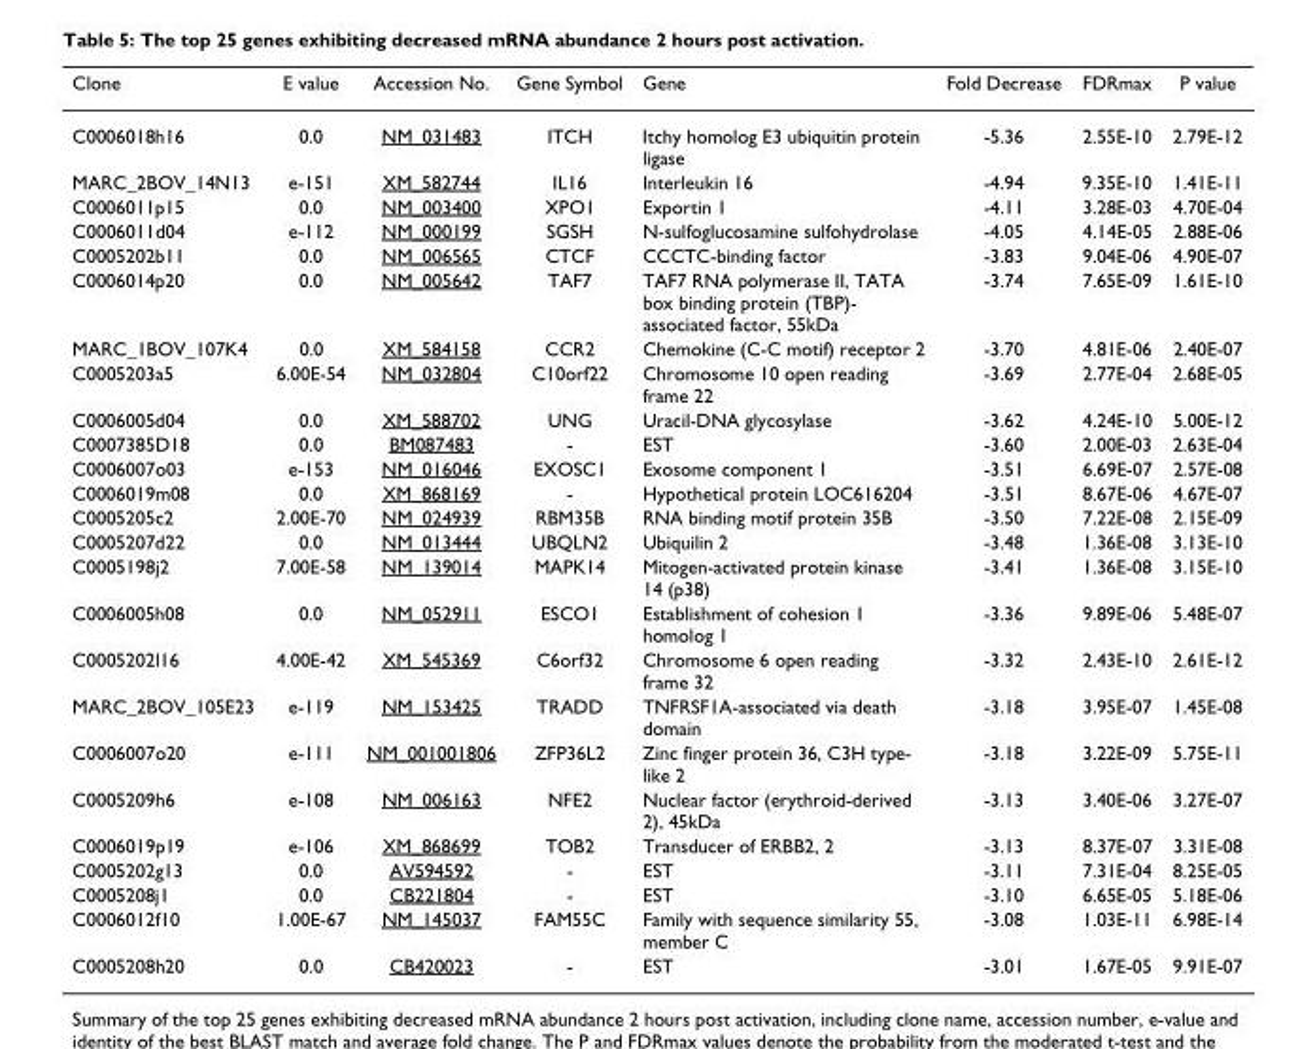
<table><thead><tr><td>Clone</td><td>E value</td><td>Accession No.</td><td>Gene Symbol</td><td>Gene</td><td>Fold Decrease</td><td>FDRmax</td><td>P value</td></tr></thead><tbody><tr><td>C0006018h16</td><td>0.0</td><td>NM_031483</td><td>ITCH</td><td>Itchy homolog E3 ubiquitin protein ligase</td><td>-5.36</td><td>2.55E-10</td><td>2.79E-12</td></tr><tr><td>MARC_2BOV_14N13</td><td>e-151</td><td>XM_582744</td><td>IL16</td><td>Interleukin 16</td><td>-4.94</td><td>9.35E-10</td><td>1.41E-11</td></tr><tr><td>C0006011p15</td><td>0.0</td><td>NM_003400</td><td>XPO1</td><td>Exportin 1</td><td>-4.11</td><td>3.28E-03</td><td>4.70E-04</td></tr><tr><td>C0006011d04</td><td>e-112</td><td>NM_000199</td><td>SGSH</td><td>N-sulfoglucosamine sulfohydrolase</td><td>-4.05</td><td>4.14E-05</td><td>2.88E-06</td></tr><tr><td>C0005202b11</td><td>0.0</td><td>NM_006565</td><td>CTCF</td><td>CCCTC-binding factor</td><td>-3.83</td><td>9.04E-06</td><td>4.90E-07</td></tr><tr><td>C0006014p20</td><td>0.0</td><td>NM_005642</td><td>TAF7</td><td>TAF7 RNA polymerase II, TATA box binding protein (TBP)- associated factor, 55kDa</td><td>-3.74</td><td>7.65E-09</td><td>1.61E-10</td></tr><tr><td>MARC_1BOV_107K4</td><td>0.0</td><td>XM_584158</td><td>CCR2</td><td>Chemokine (C-C motif) receptor 2</td><td>-3.70</td><td>4.81E-06</td><td>2.40E-07</td></tr><tr><td>C0005203a5</td><td>6.00E-54</td><td>NM_032804</td><td>C10orf22</td><td>Chromosome 10 open reading frame 22</td><td>-3.69</td><td>2.77E-04</td><td>2.68E-05</td></tr><tr><td>C0006005d04</td><td>0.0</td><td>XM_588702</td><td>UNG</td><td>Uracil-DNA glycosylase</td><td>-3.62</td><td>4.24E-10</td><td>5.00E-12</td></tr><tr><td>C0007385D18</td><td>0.0</td><td>BM087483</td><td>-</td><td>EST</td><td>-3.60</td><td>2.00E-03</td><td>2.63E-04</td></tr><tr><td>C0006007o03</td><td>e-153</td><td>NM_016046</td><td>EXOSC1</td><td>Exosome component 1</td><td>-3.51</td><td>6.69E-07</td><td>2.57E-08</td></tr><tr><td>C0006019m08</td><td>0.0</td><td>XM_868169</td><td>-</td><td>Hypothetical protein LOC616204</td><td>-3.51</td><td>8.67E-06</td><td>4.67E-07</td></tr><tr><td>C0005205c2</td><td>2.00E-70</td><td>NM_024939</td><td>RBM35B</td><td>RNA binding motif protein 35B</td><td>-3.50</td><td>7.22E-08</td><td>2.15E-09</td></tr><tr><td>C0005207d22</td><td>0.0</td><td>NM_013444</td><td>UBQLN2</td><td>Ubiquilin 2</td><td>-3.48</td><td>1.36E-08</td><td>3.13E-10</td></tr><tr><td>C0005198j2</td><td>7.00E-58</td><td>NM_139014</td><td>MAPK14</td><td>Mitogen-activated protein kinase 14 (p38)</td><td>-3.41</td><td>1.36E-08</td><td>3.15E-10</td></tr><tr><td>C0006005h08</td><td>0.0</td><td>NM_052911</td><td>ESCO1</td><td>Establishment of cohesion 1 homolog 1</td><td>-3.36</td><td>9.89E-06</td><td>5.48E-07</td></tr><tr><td>C0005202l16</td><td>4.00E-42</td><td>XM_545369</td><td>C6orf32</td><td>Chromosome 6 open reading frame 32</td><td>-3.32</td><td>2.43E-10</td><td>2.61E-12</td></tr><tr><td>MARC_2BOV_105E23</td><td>e-119</td><td>NM_153425</td><td>TRADD</td><td>TNFRSF1A-associated via death domain</td><td>-3.18</td><td>3.95E-07</td><td>1.45E-08</td></tr><tr><td>C0006007o20</td><td>e-111</td><td>NM_001001806</td><td>ZFP36L2</td><td>Zinc finger protein 36, C3H type- like 2</td><td>-3.18</td><td>3.22E-09</td><td>5.75E-11</td></tr><tr><td>C0005209h6</td><td>e-108</td><td>NM_006163</td><td>NFE2</td><td>Nuclear factor (erythroid-derived 2), 45kDa</td><td>-3.13</td><td>3.40E-06</td><td>3.27E-07</td></tr><tr><td>C0006019p19</td><td>e-106</td><td>XM_868699</td><td>TOB2</td><td>Transducer of ERBB2, 2</td><td>-3.13</td><td>8.37E-07</td><td>3.31E-08</td></tr><tr><td>C0005202g13</td><td>0.0</td><td>AV594592</td><td>-</td><td>EST</td><td>-3.11</td><td>7.31E-04</td><td>8.25E-05</td></tr><tr><td>C0005208j1</td><td>0.0</td><td>CB221804</td><td>-</td><td>EST</td><td>-3.10</td><td>6.65E-05</td><td>5.18E-06</td></tr><tr><td>C0006012f10</td><td>1.00E-67</td><td>NM_145037</td><td>FAM55C</td><td>Family with sequence similarity 55, member C</td><td>-3.08</td><td>1.03E-11</td><td>6.98E-14</td></tr><tr><td>C0005208h20</td><td>0.0</td><td>CB420023</td><td>-</td><td>EST</td><td>-3.01</td><td>1.67E-05</td><td>9.91E-07</td></tr></tbody></table>